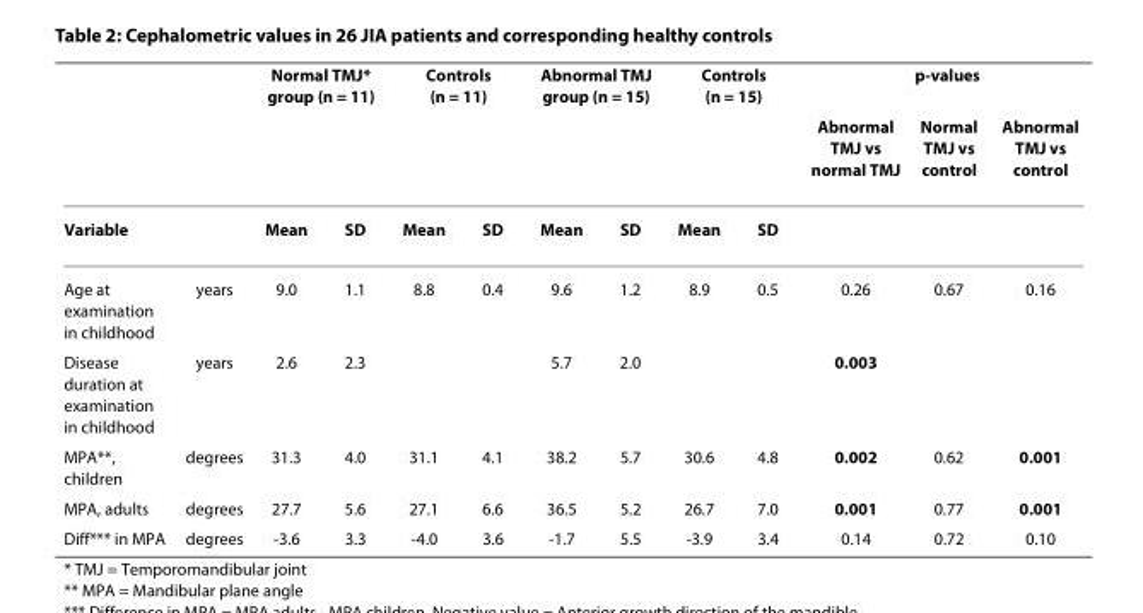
<table><thead><tr><td rowspan="2"></td><td rowspan="2"></td><td colspan="2">Normal TMJ* group (n = 11)</td><td colspan="2">Controls (n = 11)</td><td colspan="2">Abnormal TMJ group (n = 15)</td><td colspan="2">Controls (n = 15)</td><td colspan="3">p-values</td></tr><tr><td></td><td></td><td></td><td></td><td></td><td></td><td></td><td></td><td>Abnormal TMJ vs normal TMJ</td><td>Normal TMJ vs control</td><td>Abnormal TMJ vs control</td></tr></thead><tbody><tr><td>Variable</td><td></td><td>Mean</td><td>SD</td><td>Mean</td><td>SD</td><td>Mean</td><td>SD</td><td>Mean</td><td>SD</td><td></td><td></td><td></td></tr><tr><td>Age at examination in childhood</td><td>years</td><td>9.0</td><td>1.1</td><td>8.8</td><td>0.4</td><td>9.6</td><td>1.2</td><td>8.9</td><td>0.5</td><td>0.26</td><td>0.67</td><td>0.16</td></tr><tr><td>Disease duration at examination in childhood</td><td>years</td><td>2.6</td><td>2.3</td><td></td><td></td><td>5.7</td><td>2.0</td><td></td><td></td><td>0.003</td><td></td><td></td></tr><tr><td>MPA**, children</td><td>degrees</td><td>31.3</td><td>4.0</td><td>31.1</td><td>4.1</td><td>38.2</td><td>5.7</td><td>30.6</td><td>4.8</td><td>0.002</td><td>0.62</td><td>0.001</td></tr><tr><td>MPA, adults</td><td>degrees</td><td>27.7</td><td>5.6</td><td>27.1</td><td>6.6</td><td>36.5</td><td>5.2</td><td>26.7</td><td>7.0</td><td>0.001</td><td>0.77</td><td>0.001</td></tr><tr><td>Diff*** in MPA</td><td>degrees</td><td>-3.6</td><td>3.3</td><td>-4.0</td><td>3.6</td><td>-1.7</td><td>5.5</td><td>-3.9</td><td>3.4</td><td>0.14</td><td>0.72</td><td>0.10</td></tr></tbody></table>